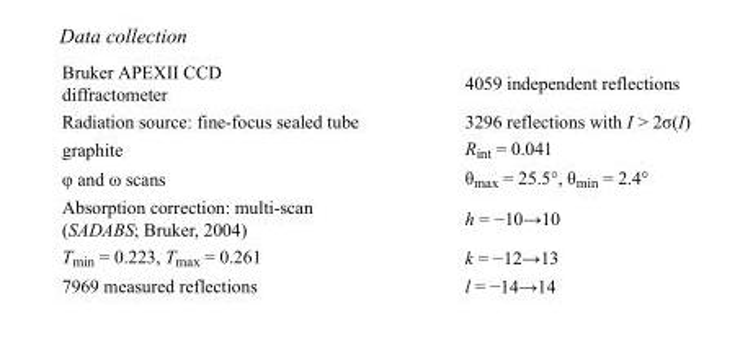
<table><tbody><tr><td>Bruker APEXII CCD diffractometer</td><td>4059 independent reflections</td></tr><tr><td>Radiation source: fine-focus sealed tube</td><td>3296 reflections with I &gt; 2σ(I)</td></tr><tr><td>graphite</td><td>R<sub>int</sub> = 0.041</td></tr><tr><td>φ and ω scans</td><td>θ<sub>max</sub> = 25.5°, θ<sub>min</sub> = 2.4°</td></tr><tr><td>Absorption correction: multi-scan (SADABS; Bruker, 2004)</td><td>h = −10→10</td></tr><tr><td>T<sub>min</sub> = 0.223, T<sub>max</sub> = 0.261</td><td>k = −12→13</td></tr><tr><td>7969 measured reflections</td><td>l = −14→14</td></tr></tbody></table>